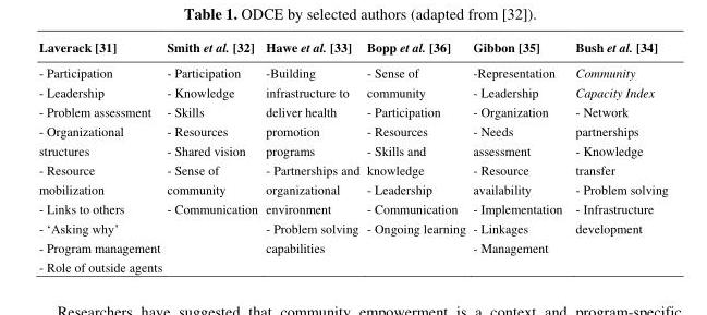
<table><thead><tr><td>Laverack [31]</td><td>Smith et al. [32]</td><td>Hawe et al. [33]</td><td>Bopp et al. [36]</td><td>Gibbon [35]</td><td>Bush et al. [34]</td></tr></thead><tbody><tr><td>- Participation - Leadership - Problem assessment - Organizational structures - Resource mobilization - Links to others - ‗Asking why‘ - Program management - Role of outside agents</td><td>- Participation - Knowledge - Skills - Resources - Shared vision - Sense of community - Communication</td><td>-Building infrastructure to deliver health promotion programs - Partnerships and organizational environment - Problem solving capabilities</td><td>- Sense of community - Participation - Resources - Skills and knowledge - Leadership - Communication - Ongoing learning</td><td>-Representation - Leadership - Organization - Needs assessment - Resource availability - Implementation - Linkages - Management</td><td>Community Capacity Index - Network partnerships - Knowledge transfer - Problem solving - Infrastructure development</td></tr></tbody></table>